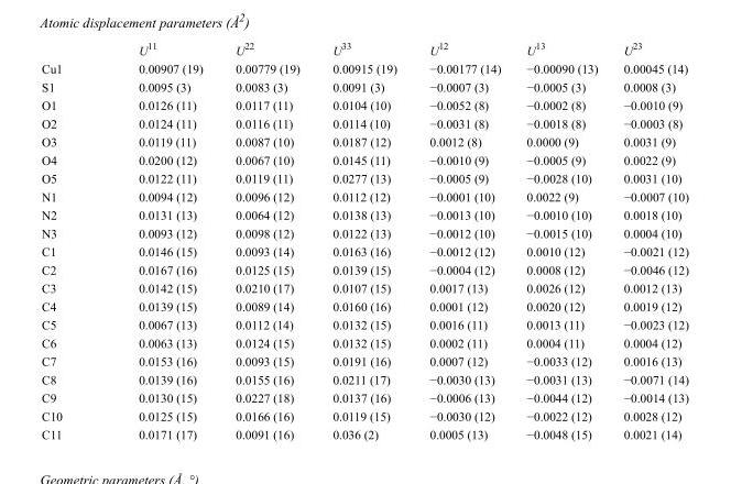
<table><thead><tr><td></td><td>U<sup>11</sup></td><td>U<sup>22</sup></td><td>U<sup>33</sup></td><td>U<sup>12</sup></td><td>U<sup>13</sup></td><td>U<sup>23</sup></td></tr></thead><tbody><tr><td>Cu1</td><td>0.00907 (19)</td><td>0.00779 (19)</td><td>0.00915 (19)</td><td>−0.00177 (14)</td><td>−0.00090 (13)</td><td>0.00045 (14)</td></tr><tr><td>S1</td><td>0.0095 (3)</td><td>0.0083 (3)</td><td>0.0091 (3)</td><td>−0.0007 (3)</td><td>−0.0005 (3)</td><td>0.0008 (3)</td></tr><tr><td>O1</td><td>0.0126 (11)</td><td>0.0117 (11)</td><td>0.0104 (10)</td><td>−0.0052 (8)</td><td>−0.0002 (8)</td><td>−0.0010 (9)</td></tr><tr><td>O2</td><td>0.0124 (11)</td><td>0.0116 (11)</td><td>0.0114 (10)</td><td>−0.0031 (8)</td><td>−0.0018 (8)</td><td>−0.0003 (8)</td></tr><tr><td>O3</td><td>0.0119 (11)</td><td>0.0087 (10)</td><td>0.0187 (12)</td><td>0.0012 (8)</td><td>0.0000 (9)</td><td>0.0031 (9)</td></tr><tr><td>O4</td><td>0.0200 (12)</td><td>0.0067 (10)</td><td>0.0145 (11)</td><td>−0.0010 (9)</td><td>−0.0005 (9)</td><td>0.0022 (9)</td></tr><tr><td>O5</td><td>0.0122 (11)</td><td>0.0119 (11)</td><td>0.0277 (13)</td><td>−0.0005 (9)</td><td>−0.0028 (10)</td><td>0.0031 (10)</td></tr><tr><td>N1</td><td>0.0094 (12)</td><td>0.0096 (12)</td><td>0.0112 (12)</td><td>−0.0001 (10)</td><td>0.0022 (9)</td><td>−0.0007 (10)</td></tr><tr><td>N2</td><td>0.0131 (13)</td><td>0.0064 (12)</td><td>0.0138 (13)</td><td>−0.0013 (10)</td><td>−0.0010 (10)</td><td>0.0018 (10)</td></tr><tr><td>N3</td><td>0.0093 (12)</td><td>0.0098 (12)</td><td>0.0122 (13)</td><td>−0.0012 (10)</td><td>−0.0015 (10)</td><td>0.0004 (10)</td></tr><tr><td>C1</td><td>0.0146 (15)</td><td>0.0093 (14)</td><td>0.0163 (16)</td><td>−0.0012 (12)</td><td>0.0010 (12)</td><td>−0.0021 (12)</td></tr><tr><td>C2</td><td>0.0167 (16)</td><td>0.0125 (15)</td><td>0.0139 (15)</td><td>−0.0004 (12)</td><td>0.0008 (12)</td><td>−0.0046 (12)</td></tr><tr><td>C3</td><td>0.0142 (15)</td><td>0.0210 (17)</td><td>0.0107 (15)</td><td>0.0017 (13)</td><td>0.0026 (12)</td><td>0.0012 (13)</td></tr><tr><td>C4</td><td>0.0139 (15)</td><td>0.0089 (14)</td><td>0.0160 (16)</td><td>0.0001 (12)</td><td>0.0020 (12)</td><td>0.0019 (12)</td></tr><tr><td>C5</td><td>0.0067 (13)</td><td>0.0112 (14)</td><td>0.0132 (15)</td><td>0.0016 (11)</td><td>0.0013 (11)</td><td>−0.0023 (12)</td></tr><tr><td>C6</td><td>0.0063 (13)</td><td>0.0124 (15)</td><td>0.0132 (15)</td><td>0.0002 (11)</td><td>0.0004 (11)</td><td>0.0004 (12)</td></tr><tr><td>C7</td><td>0.0153 (16)</td><td>0.0093 (15)</td><td>0.0191 (16)</td><td>0.0007 (12)</td><td>−0.0033 (12)</td><td>0.0016 (13)</td></tr><tr><td>C8</td><td>0.0139 (16)</td><td>0.0155 (16)</td><td>0.0211 (17)</td><td>−0.0030 (13)</td><td>−0.0031 (13)</td><td>−0.0071 (14)</td></tr><tr><td>C9</td><td>0.0130 (15)</td><td>0.0227 (18)</td><td>0.0137 (16)</td><td>−0.0006 (13)</td><td>−0.0044 (12)</td><td>−0.0014 (13)</td></tr><tr><td>C10</td><td>0.0125 (15)</td><td>0.0166 (16)</td><td>0.0119 (15)</td><td>−0.0030 (12)</td><td>−0.0022 (12)</td><td>0.0028 (12)</td></tr><tr><td>C11</td><td>0.0171 (17)</td><td>0.0091 (16)</td><td>0.036 (2)</td><td>0.0005 (13)</td><td>−0.0048 (15)</td><td>0.0021 (14)</td></tr></tbody></table>